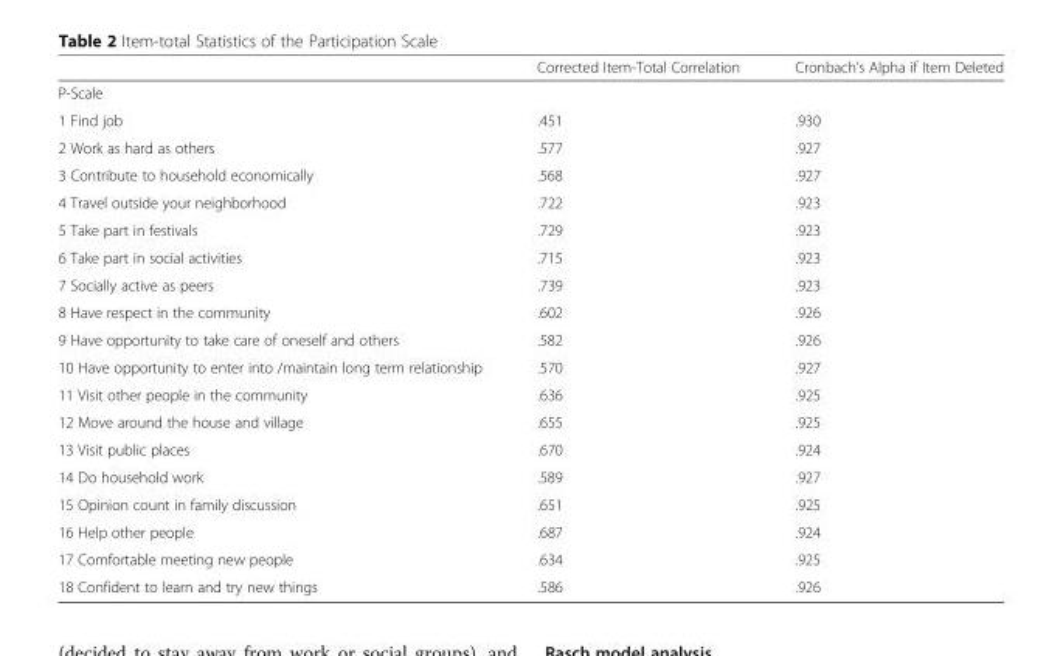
<table><thead><tr><td></td><td>Corrected Item-Total Correlation</td><td>Cronbach’s Alpha if Item Deleted</td></tr></thead><tbody><tr><td colspan="3">P-Scale</td></tr><tr><td>1 Find job</td><td>.451</td><td>.930</td></tr><tr><td>2 Work as hard as others</td><td>.577</td><td>.927</td></tr><tr><td>3 Contribute to household economically</td><td>.568</td><td>.927</td></tr><tr><td>4 Travel outside your neighborhood</td><td>.722</td><td>.923</td></tr><tr><td>5 Take part in festivals</td><td>.729</td><td>.923</td></tr><tr><td>6 Take part in social activities</td><td>.715</td><td>.923</td></tr><tr><td>7 Socially active as peers</td><td>.739</td><td>.923</td></tr><tr><td>8 Have respect in the community</td><td>.602</td><td>.926</td></tr><tr><td>9 Have opportunity to take care of oneself and others</td><td>.582</td><td>.926</td></tr><tr><td>10 Have opportunity to enter into /maintain long term relationship</td><td>.570</td><td>.927</td></tr><tr><td>11 Visit other people in the community</td><td>.636</td><td>.925</td></tr><tr><td>12 Move around the house and village</td><td>.655</td><td>.925</td></tr><tr><td>13 Visit public places</td><td>.670</td><td>.924</td></tr><tr><td>14 Do household work</td><td>.589</td><td>.927</td></tr><tr><td>15 Opinion count in family discussion</td><td>.651</td><td>.925</td></tr><tr><td>16 Help other people</td><td>.687</td><td>.924</td></tr><tr><td>17 Comfortable meeting new people</td><td>.634</td><td>.925</td></tr><tr><td>18 Confident to learn and try new things</td><td>.586</td><td>.926</td></tr></tbody></table>